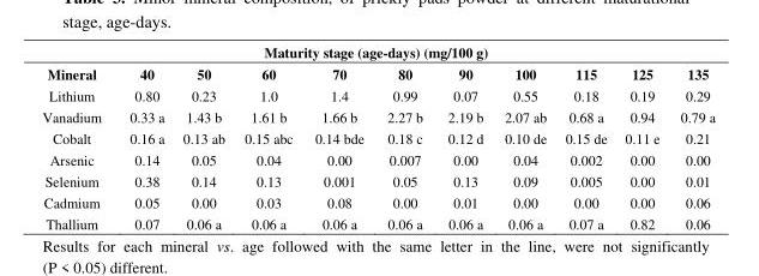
<table><thead><tr><td colspan="11">Maturity stage (age-days) (mg/100 g)</td></tr><tr><td>Mineral</td><td>40</td><td>50</td><td>60</td><td>70</td><td>80</td><td>90</td><td>100</td><td>115</td><td>125</td><td>135</td></tr></thead><tbody><tr><td>Lithium</td><td>0.80</td><td>0.23</td><td>1.0</td><td>1.4</td><td>0.99</td><td>0.07</td><td>0.55</td><td>0.18</td><td>0.19</td><td>0.29</td></tr><tr><td>Vanadium</td><td>0.33 a</td><td>1.43 b</td><td>1.61 b</td><td>1.66 b</td><td>2.27 b</td><td>2.19 b</td><td>2.07 ab</td><td>0.68 a</td><td>0.94</td><td>0.79 a</td></tr><tr><td>Cobalt</td><td>0.16 a</td><td>0.13 ab</td><td>0.15 abc</td><td>0.14 bde</td><td>0.18 c</td><td>0.12 d</td><td>0.10 de</td><td>0.15 de</td><td>0.11 e</td><td>0.21</td></tr><tr><td>Arsenic</td><td>0.14</td><td>0.05</td><td>0.04</td><td>0.00</td><td>0.007</td><td>0.00</td><td>0.04</td><td>0.002</td><td>0.00</td><td>0.00</td></tr><tr><td>Selenium</td><td>0.38</td><td>0.14</td><td>0.13</td><td>0.001</td><td>0.05</td><td>0.13</td><td>0.09</td><td>0.005</td><td>0.00</td><td>0.01</td></tr><tr><td>Cadmium</td><td>0.05</td><td>0.00</td><td>0.03</td><td>0.08</td><td>0.00</td><td>0.01</td><td>0.00</td><td>0.00</td><td>0.00</td><td>0.06</td></tr><tr><td>Thallium</td><td>0.07</td><td>0.06 a</td><td>0.06 a</td><td>0.06 a</td><td>0.06 a</td><td>0.06 a</td><td>0.06 a</td><td>0.07 a</td><td>0.82</td><td>0.06</td></tr></tbody></table>